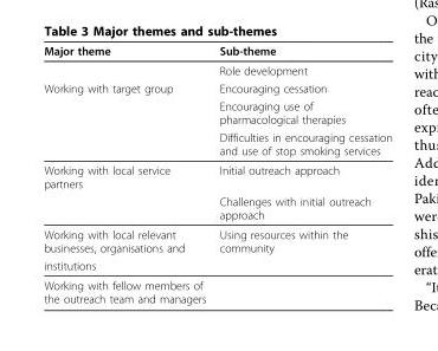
<table><thead><tr><td>Major theme</td><td>Sub-theme</td></tr></thead><tbody><tr><td></td><td>Role development</td></tr><tr><td rowspan="3">Working with target group</td><td>Encouraging cessation</td></tr><tr><td>Encouraging use of pharmacological therapies</td></tr><tr><td>Difficulties in encouraging cessation and use of stop smoking services</td></tr><tr><td rowspan="2">Working with local service partners</td><td>Initial outreach approach</td></tr><tr><td>Challenges with initial outreach approach</td></tr><tr><td>Working with local relevant businesses, organisations and</td><td>Using resources within the community</td></tr><tr><td colspan="2">institutions</td></tr><tr><td>Working with fellow members of the outreach team and managers</td><td></td></tr></tbody></table>